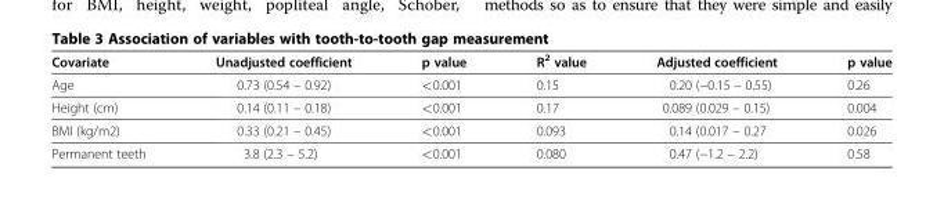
<table><thead><tr><td>Covariate</td><td>Unadjusted coefficient</td><td>p value</td><td>R<sup>2</sup> value</td><td>Adjusted coefficient</td><td>p value</td></tr></thead><tbody><tr><td>Age</td><td>0.73 (0.54 – 0.92)</td><td>&lt;0.001</td><td>0.15</td><td>0.20 (−0.15 – 0.55)</td><td>0.26</td></tr><tr><td>Height (cm)</td><td>0.14 (0.11 – 0.18)</td><td>&lt;0.001</td><td>0.17</td><td>0.089 (0.029 – 0.15)</td><td>0.004</td></tr><tr><td>BMI (kg/m2)</td><td>0.33 (0.21 – 0.45)</td><td>&lt;0.001</td><td>0.093</td><td>0.14 (0.017 – 0.27</td><td>0.026</td></tr><tr><td>Permanent teeth</td><td>3.8 (2.3 – 5.2)</td><td>&lt;0.001</td><td>0.080</td><td>0.47 (−1.2 – 2.2)</td><td>0.58</td></tr></tbody></table>